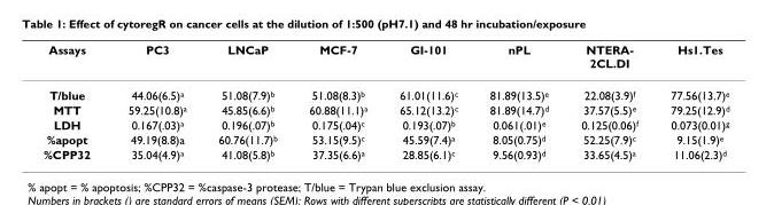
<table><thead><tr><td>Assays</td><td>PC3</td><td>LNCaP</td><td>MCF-7</td><td>GI-101</td><td>nPL</td><td>NTERA- 2CL.DI</td><td>Hs1.Tes</td></tr></thead><tbody><tr><td>T/blue</td><td>44.06(6.5)<sup>a</sup></td><td>51.08(7.9)<sup>b</sup></td><td>51.08(8.3)<sup>b</sup></td><td>61.01(11.6)<sup>c</sup></td><td>81.89(13.5)<sup>e</sup></td><td>22.08(3.9)<sup>f</sup></td><td>77.56(13.7)<sup>e</sup></td></tr><tr><td>MTT</td><td>59.25(10.8)<sup>a</sup></td><td>45.85(6.6)<sup>b</sup></td><td>60.88(11.1)<sup>a</sup></td><td>65.12(13.2)<sup>c</sup></td><td>81.89(14.7)<sup>d</sup></td><td>37.57(5.5)<sup>e</sup></td><td>79.25(12.9)<sup>d</sup></td></tr><tr><td>LDH</td><td>0.167(.03)<sup>a</sup></td><td>0.196(.07)<sup>b</sup></td><td>0.175(.04)<sup>c</sup></td><td>0.193(.07)<sup>b</sup></td><td>0.061(.01)<sup>e</sup></td><td>0.125(0.06)<sup>f</sup></td><td>0.073(0.01)<sup>g</sup></td></tr><tr><td>%apopt</td><td>49.19(8.8)a</td><td>60.76(11.7)<sup>b</sup></td><td>53.15(9.5)<sup>c</sup></td><td>45.59(7.4)<sup>a</sup></td><td>8.05(0.75)<sup>d</sup></td><td>52.25(7.9)<sup>c</sup></td><td>9.15(1.9)<sup>e</sup></td></tr><tr><td>%CPP32</td><td>35.04(4.9)<sup>a</sup></td><td>41.08(5.8)<sup>b</sup></td><td>37.35(6.6)<sup>a</sup></td><td>28.85(6.1)<sup>c</sup></td><td>9.56(0.93)<sup>d</sup></td><td>33.65(4.5)<sup>a</sup></td><td>11.06(2.3)<sup>d</sup></td></tr></tbody></table>